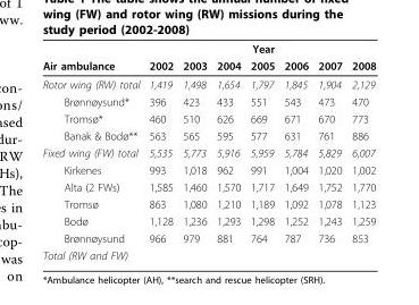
<table><thead><tr><td rowspan="2">Air ambulance</td><td colspan="7">Year</td></tr><tr><td>2002</td><td>2003</td><td>2004</td><td>2005</td><td>2006</td><td>2007</td><td>2008</td></tr></thead><tbody><tr><td>Rotor wing (RW) total</td><td>1,419</td><td>1,498</td><td>1,654</td><td>1,797</td><td>1,845</td><td>1,904</td><td>2,129</td></tr><tr><td>Brønnøysund*</td><td>396</td><td>423</td><td>433</td><td>551</td><td>543</td><td>473</td><td>470</td></tr><tr><td>Tromsø*</td><td>460</td><td>510</td><td>626</td><td>669</td><td>671</td><td>670</td><td>773</td></tr><tr><td>Banak &amp; Bodø**</td><td>563</td><td>565</td><td>595</td><td>577</td><td>631</td><td>761</td><td>886</td></tr><tr><td>Fixed wing (FW) total</td><td>5,535</td><td>5,773</td><td>5,916</td><td>5,959</td><td>5,784</td><td>5,829</td><td>6,007</td></tr><tr><td>Kirkenes</td><td>993</td><td>1,018</td><td>962</td><td>991</td><td>1,004</td><td>1,020</td><td>1,002</td></tr><tr><td>Alta (2 FWs)</td><td>1,585</td><td>1,460</td><td>1,570</td><td>1,717</td><td>1,649</td><td>1,752</td><td>1,770</td></tr><tr><td>Tromsø</td><td>863</td><td>1,080</td><td>1,210</td><td>1,189</td><td>1,092</td><td>1,078</td><td>1,123</td></tr><tr><td>Bodø</td><td>1,128</td><td>1,236</td><td>1,293</td><td>1,298</td><td>1,252</td><td>1,243</td><td>1,259</td></tr><tr><td>Brønnøysund</td><td>966</td><td>979</td><td>881</td><td>764</td><td>787</td><td>736</td><td>853</td></tr><tr><td>Total (RW and FW)</td><td colspan="7"></td></tr></tbody></table>